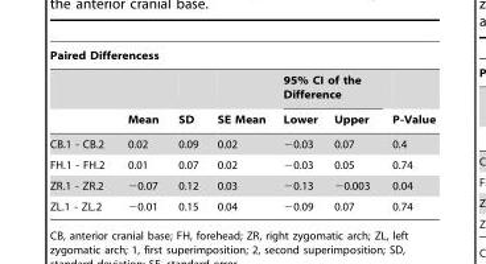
<table><thead><tr><td colspan="7">Paired Differencess</td></tr><tr><td rowspan="2"></td><td rowspan="2">Mean</td><td rowspan="2">SD</td><td rowspan="2">SE Mean</td><td colspan="2">95% CI of the Difference</td><td rowspan="2">P-Value</td></tr><tr><td>Lower</td><td>Upper</td></tr></thead><tbody><tr><td>CB.1 - CB.2</td><td>0.02</td><td>0.09</td><td>0.02</td><td>−0.03</td><td>0.07</td><td>0.4</td></tr><tr><td>FH.1 - FH.2</td><td>0.01</td><td>0.07</td><td>0.02</td><td>−0.03</td><td>0.05</td><td>0.74</td></tr><tr><td>ZR.1 - ZR.2</td><td>−0.07</td><td>0.12</td><td>0.03</td><td>−0.13</td><td>−0.003</td><td>0.04</td></tr><tr><td>ZL.1 - ZL.2</td><td>−0.01</td><td>0.15</td><td>0.04</td><td>−0.09</td><td>0.07</td><td>0.74</td></tr></tbody></table>